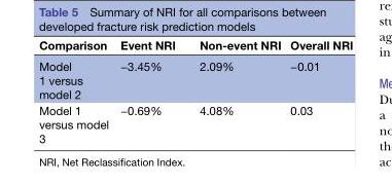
<table><thead><tr><td>Comparison</td><td>Event NRI</td><td>Non-event NRI</td><td>Overall NRI</td></tr></thead><tbody><tr><td>Model 1 versus model 2</td><td>−3.45%</td><td>2.09%</td><td>−0.01</td></tr><tr><td>Model 1 versus model 3</td><td>−0.69%</td><td>4.08%</td><td>0.03</td></tr></tbody></table>